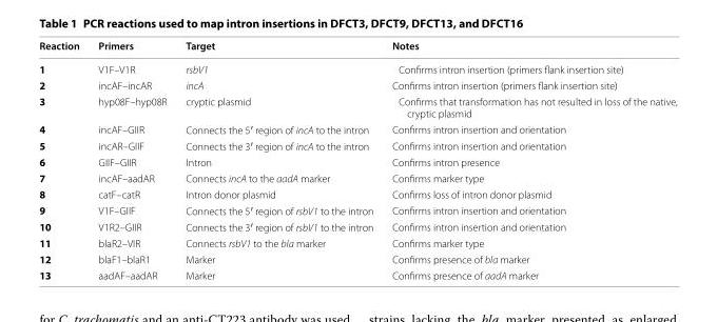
<table><thead><tr><td>Reaction</td><td>Primers</td><td>Target</td><td>Notes</td></tr></thead><tbody><tr><td>1</td><td>V1F–V1R</td><td>rsbV1</td><td>Confirms intron insertion (primers flank insertion site)</td></tr><tr><td>2</td><td>incAF–incAR</td><td>incA</td><td>Confirms intron insertion (primers flank insertion site)</td></tr><tr><td>3</td><td>hyp08F–hyp08R</td><td>cryptic plasmid</td><td>Confirms that transformation has not resulted in loss of the native, cryptic plasmid</td></tr><tr><td>4</td><td>incAF–GIIR</td><td>Connects the 5′ region of incA to the intron</td><td>Confirms intron insertion and orientation</td></tr><tr><td>5</td><td>incAR–GIIF</td><td>Connects the 3′ region of incA to the intron</td><td>Confirms intron insertion and orientation</td></tr><tr><td>6</td><td>GIIF–GIIR</td><td>Intron</td><td>Confirms intron presence</td></tr><tr><td>7</td><td>incAF–aadAR</td><td>Connects incA to the aadA marker</td><td>Confirms marker type</td></tr><tr><td>8</td><td>catF–catR</td><td>Intron donor plasmid</td><td>Confirms loss of intron donor plasmid</td></tr><tr><td>9</td><td>V1F–GIIF</td><td>Connects the 5′ region of rsbV1 to the intron</td><td>Confirms intron insertion and orientation</td></tr><tr><td>10</td><td>V1R2–GIIR</td><td>Connects the 3′ region of rsbV1 to the intron</td><td>Confirms intron insertion and orientation</td></tr><tr><td>11</td><td>blaR2–VIR</td><td>Connects rsbV1 to the bla marker</td><td>Confirms marker type</td></tr><tr><td>12</td><td>blaF1–blaR1</td><td>Marker</td><td>Confirms presence of bla marker</td></tr><tr><td>13</td><td>aadAF–aadAR</td><td>Marker</td><td>Confirms presence of aadA marker</td></tr></tbody></table>